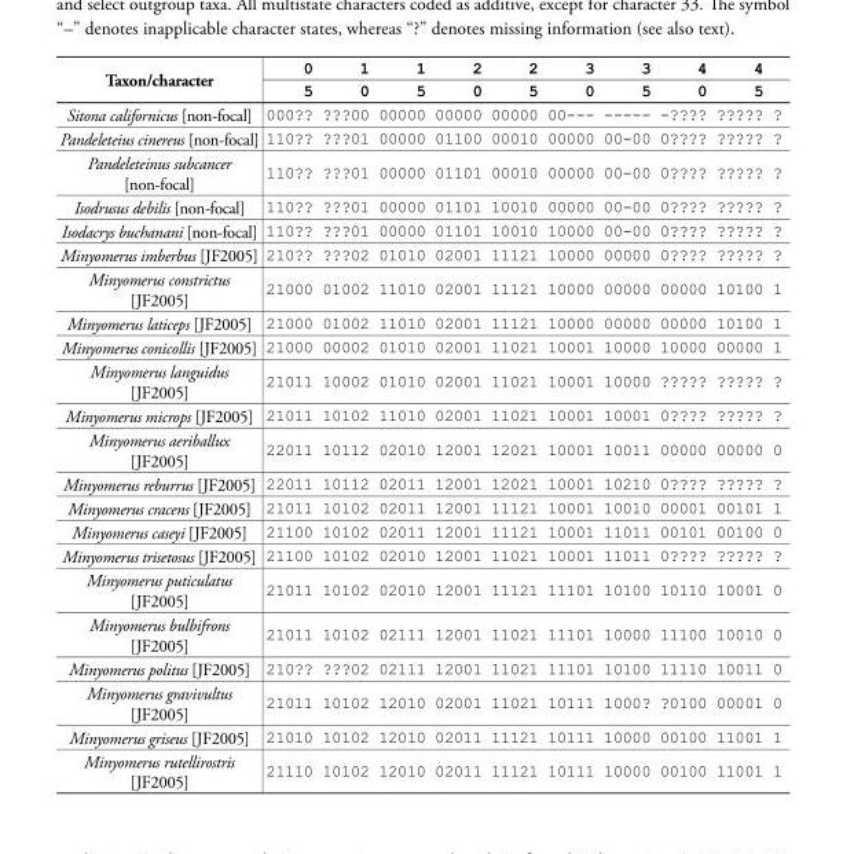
<table><thead><tr><td rowspan="2">Taxon/character</td><td rowspan="2">0 1 1 2 2 3 3 4 4 5 0 5 0 5 0 5 0 5</td></tr><tr></tr></thead><tbody><tr><td>Sitona californicus [non-focal]</td><td>000?? ???00 00000 00000 00000 00--- ----- -???? ????? ?</td></tr><tr><td>Pandeleteius cinereus [non-focal]</td><td>110?? ???01 00000 01100 00010 00000 00-00 0???? ????? ?</td></tr><tr><td>Pandeleteinus subcancer [non-focal]</td><td>110?? ???01 00000 01101 00010 00000 00-00 0???? ????? ?</td></tr><tr><td>Isodrusus debilis [non-focal]</td><td>110?? ???01 00000 01101 10010 00000 00-00 0???? ????? ?</td></tr><tr><td>Isodacrys buchanani [non-focal]</td><td>110?? ???01 00000 01101 10010 10000 00-00 0???? ????? ?</td></tr><tr><td>Minyomerus imberbus [JF2005]</td><td>210?? ???02 01010 02001 11121 10000 00000 0???? ????? ?</td></tr><tr><td>Minyomerus constrictus [JF2005]</td><td>21000 01002 11010 02001 11121 10000 00000 00000 10100 1</td></tr><tr><td>Minyomerus laticeps [JF2005]</td><td>21000 01002 11010 02001 11121 10000 00000 00000 10100 1</td></tr><tr><td>Minyomerus conicollis [JF2005]</td><td>21000 00002 01010 02001 11021 10001 10000 10000 00000 1</td></tr><tr><td>Minyomerus languidus [JF2005]</td><td>21011 10002 01010 02001 11021 10001 10000 ????? ????? ?</td></tr><tr><td>Minyomerus microps [JF2005]</td><td>21011 10102 11010 02001 11021 10001 10001 0???? ????? ?</td></tr><tr><td>Minyomerus aeriballux [JF2005]</td><td>22011 10112 02010 12001 12021 10001 10011 00000 00000 0</td></tr><tr><td>Minyomerus reburrus [JF2005]</td><td>22011 10112 02011 12001 12021 10001 10210 0???? ????? ?</td></tr><tr><td>Minyomerus cracens [JF2005]</td><td>21011 10102 02011 12001 11121 10001 10010 00001 00101 1</td></tr><tr><td>Minyomerus caseyi [JF2005]</td><td>21100 10102 02011 12001 11121 10001 11011 00101 00100 0</td></tr><tr><td>Minyomerus trisetosus [JF2005]</td><td>21100 10102 02010 12001 11021 10001 11011 0???? ????? ?</td></tr><tr><td>Minyomerus puticulatus [JF2005]</td><td>21011 10102 02010 12001 11121 11101 10100 10110 10001 0</td></tr><tr><td>Minyomerus bulbifrons [JF2005]</td><td>21011 10102 02111 12001 11021 11101 10000 11100 10010 0</td></tr><tr><td>Minyomerus politus [JF2005]</td><td>210?? ???02 02111 12001 11021 11101 10100 11110 10011 0</td></tr><tr><td>Minyomerus gravivultus [JF2005]</td><td>21011 10102 12010 02001 11021 10111 1000? ?0100 00001 0</td></tr><tr><td>Minyomerus griseus [JF2005]</td><td>21010 10102 12010 02011 11121 10111 10000 00100 11001 1</td></tr><tr><td>Minyomerus rutellirostris [JF2005]</td><td>21110 10102 12010 02011 11121 10111 10000 00100 11001 1</td></tr></tbody></table>